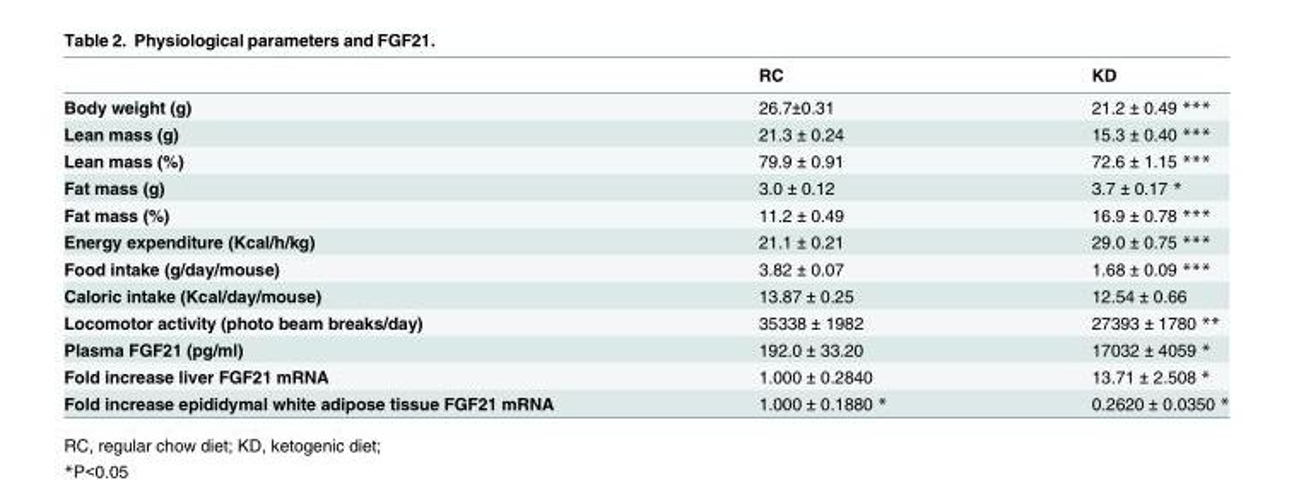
<table><thead><tr><td></td><td>RC</td><td>KD</td></tr></thead><tbody><tr><td>Body weight (g)</td><td>26.7±0.31</td><td>21.2 ± 0.49 ***</td></tr><tr><td>Lean mass (g)</td><td>21.3 ± 0.24</td><td>15.3 ± 0.40 ***</td></tr><tr><td>Lean mass (%)</td><td>79.9 ± 0.91</td><td>72.6 ± 1.15 ***</td></tr><tr><td>Fat mass (g)</td><td>3.0 ± 0.12</td><td>3.7 ± 0.17 *</td></tr><tr><td>Fat mass (%)</td><td>11.2 ± 0.49</td><td>16.9 ± 0.78 ***</td></tr><tr><td>Energy expenditure (Kcal/h/kg)</td><td>21.1 ± 0.21</td><td>29.0 ± 0.75 ***</td></tr><tr><td>Food intake (g/day/mouse)</td><td>3.82 ± 0.07</td><td>1.68 ± 0.09 ***</td></tr><tr><td>Caloric intake (Kcal/day/mouse)</td><td>13.87 ± 0.25</td><td>12.54 ± 0.66</td></tr><tr><td>Locomotor activity (photo beam breaks/day)</td><td>35338 ± 1982</td><td>27393 ± 1780 **</td></tr><tr><td>Plasma FGF21 (pg/ml)</td><td>192.0 ± 33.20</td><td>17032 ± 4059 *</td></tr><tr><td>Fold increase liver FGF21 mRNA</td><td>1.000 ± 0.2840</td><td>13.71 ± 2.508 *</td></tr><tr><td>Fold increase epididymal white adipose tissue FGF21 mRNA</td><td>1.000 ± 0.1880 *</td><td>0.2620 ± 0.0350 *</td></tr></tbody></table>